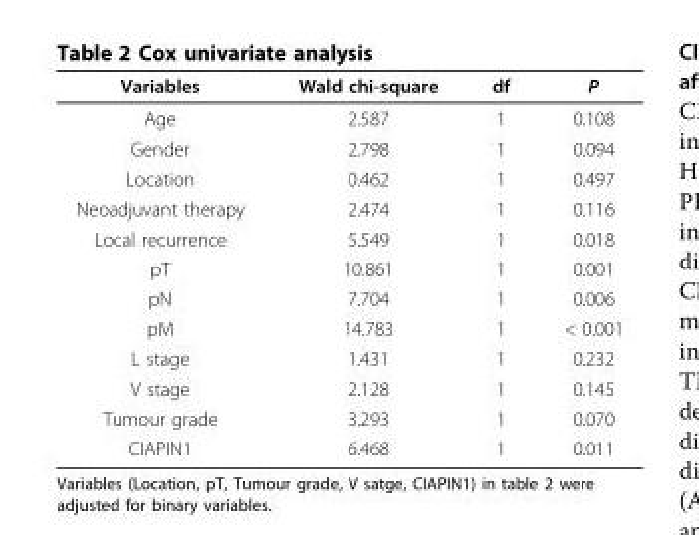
<table><thead><tr><td>Variables</td><td>Wald chi-square</td><td>df</td><td>P</td></tr></thead><tbody><tr><td>Age</td><td>2.587</td><td>1</td><td>0.108</td></tr><tr><td>Gender</td><td>2.798</td><td>1</td><td>0.094</td></tr><tr><td>Location</td><td>0.462</td><td>1</td><td>0.497</td></tr><tr><td>Neoadjuvant therapy</td><td>2.474</td><td>1</td><td>0.116</td></tr><tr><td>Local recurrence</td><td>5.549</td><td>1</td><td>0.018</td></tr><tr><td>pT</td><td>10.861</td><td>1</td><td>0.001</td></tr><tr><td>pN</td><td>7.704</td><td>1</td><td>0.006</td></tr><tr><td>pM</td><td>14.783</td><td>1</td><td>&lt; 0.001</td></tr><tr><td>L stage</td><td>1.431</td><td>1</td><td>0.232</td></tr><tr><td>V stage</td><td>2.128</td><td>1</td><td>0.145</td></tr><tr><td>Tumour grade</td><td>3.293</td><td>1</td><td>0.070</td></tr><tr><td>CIAPIN1</td><td>6.468</td><td>1</td><td>0.011</td></tr></tbody></table>